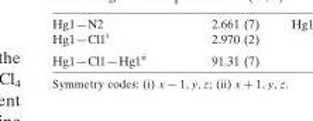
<table><tbody><tr><td>Hg1—Cl1—Hg1<sup>ii</sup></td><td>91.31 (7)</td></tr></tbody></table>